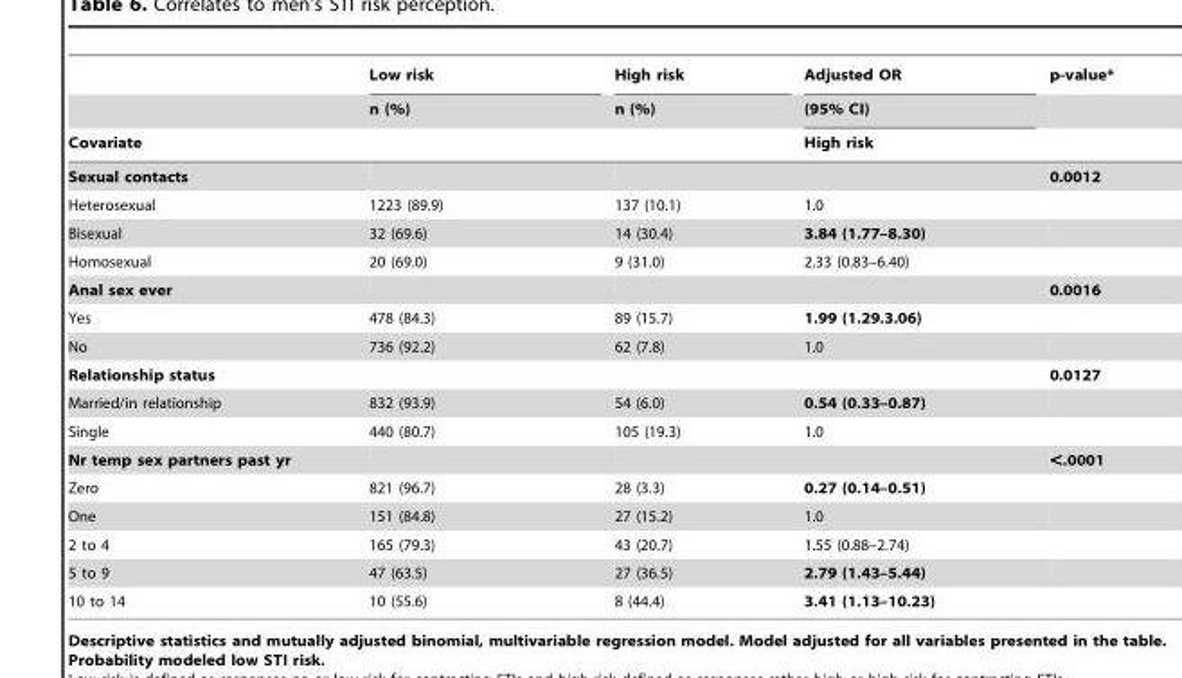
<table><thead><tr><td rowspan="3">Covariate</td><td rowspan="3">Low risk n (%)</td><td rowspan="3">High risk n (%)</td><td rowspan="3">Adjusted OR (95% CI) High risk</td><td rowspan="3">p-value*</td></tr><tr></tr><tr></tr></thead><tbody><tr><td>Sexual contacts</td><td></td><td></td><td></td><td>0.0012</td></tr><tr><td>Heterosexual</td><td>1223 (89.9)</td><td>137 (10.1)</td><td>1.0</td><td></td></tr><tr><td>Bisexual</td><td>32 (69.6)</td><td>14 (30.4)</td><td>3.84 (1.77–8.30)</td><td></td></tr><tr><td>Homosexual</td><td>20 (69.0)</td><td>9 (31.0)</td><td>2.33 (0.83–6.40)</td><td></td></tr><tr><td>Anal sex ever</td><td></td><td></td><td></td><td>0.0016</td></tr><tr><td>Yes</td><td>478 (84.3)</td><td>89 (15.7)</td><td>1.99 (1.29.3.06)</td><td></td></tr><tr><td>No</td><td>736 (92.2)</td><td>62 (7.8)</td><td>1.0</td><td></td></tr><tr><td>Relationship status</td><td></td><td></td><td></td><td>0.0127</td></tr><tr><td>Married/in relationship</td><td>832 (93.9)</td><td>54 (6.0)</td><td>0.54 (0.33–0.87)</td><td></td></tr><tr><td>Single</td><td>440 (80.7)</td><td>105 (19.3)</td><td>1.0</td><td></td></tr><tr><td>Nr temp sex partners past yr</td><td></td><td></td><td></td><td>&lt;.0001</td></tr><tr><td>Zero</td><td>821 (96.7)</td><td>28 (3.3)</td><td>0.27 (0.14–0.51)</td><td></td></tr><tr><td>One</td><td>151 (84.8)</td><td>27 (15.2)</td><td>1.0</td><td></td></tr><tr><td>2 to 4</td><td>165 (79.3)</td><td>43 (20.7)</td><td>1.55 (0.88–2.74)</td><td></td></tr><tr><td>5 to 9</td><td>47 (63.5)</td><td>27 (36.5)</td><td>2.79 (1.43–5.44)</td><td></td></tr><tr><td>10 to 14</td><td>10 (55.6)</td><td>8 (44.4)</td><td>3.41 (1.13–10.23)</td><td></td></tr></tbody></table>